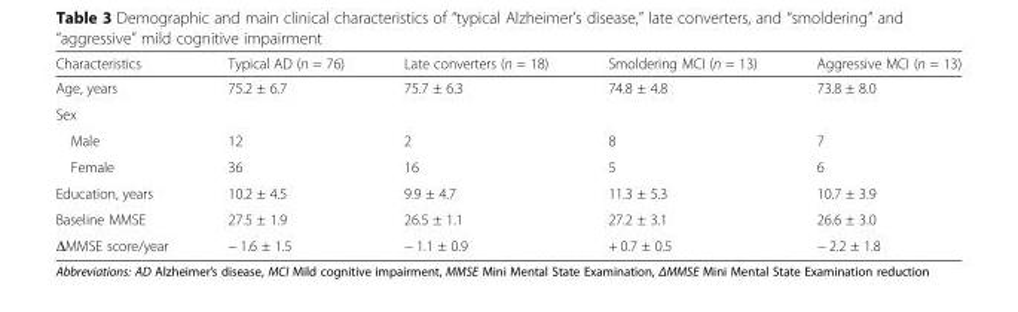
<table><thead><tr><td>Characteristics</td><td>Typical AD (n = 76)</td><td>Late converters (n = 18)</td><td>Smoldering MCI (n = 13)</td><td>Aggressive MCI (n = 13)</td></tr></thead><tbody><tr><td>Age, years</td><td>75.2 ± 6.7</td><td>75.7 ± 6.3</td><td>74.8 ± 4.8</td><td>73.8 ± 8.0</td></tr><tr><td colspan="5">Sex</td></tr><tr><td>Male</td><td>12</td><td>2</td><td>8</td><td>7</td></tr><tr><td>Female</td><td>36</td><td>16</td><td>5</td><td>6</td></tr><tr><td>Education, years</td><td>10.2 ± 4.5</td><td>9.9 ± 4.7</td><td>11.3 ± 5.3</td><td>10.7 ± 3.9</td></tr><tr><td>Baseline MMSE</td><td>27.5 ± 1.9</td><td>26.5 ± 1.1</td><td>27.2 ± 3.1</td><td>26.6 ± 3.0</td></tr><tr><td>ΔMMSE score/year</td><td>− 1.6 ± 1.5</td><td>− 1.1 ± 0.9</td><td>+ 0.7 ± 0.5</td><td>− 2.2 ± 1.8</td></tr></tbody></table>